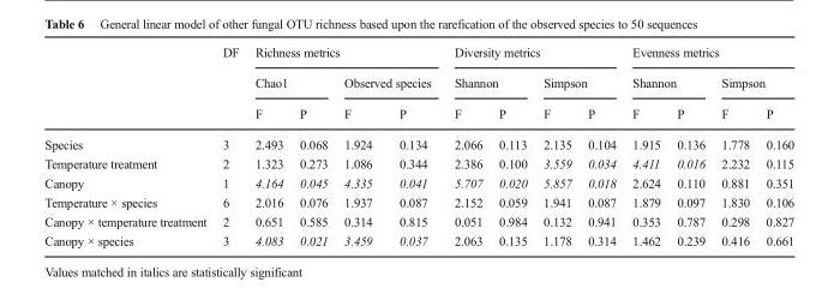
<table><thead><tr><td rowspan="3"></td><td rowspan="3">DF</td><td colspan="4">Richness metrics</td><td colspan="4">Diversity metrics</td><td colspan="4">Evenness metrics</td></tr><tr><td colspan="2">Chao1</td><td colspan="2">Observed species</td><td colspan="2">Shannon</td><td colspan="2">Simpson</td><td colspan="2">Shannon</td><td colspan="2">Simpson</td></tr><tr><td>F</td><td>P</td><td>F</td><td>P</td><td>F</td><td>P</td><td>F</td><td>P</td><td>F</td><td>P</td><td>F</td><td>P</td></tr></thead><tbody><tr><td>Species</td><td>3</td><td>2.493</td><td>0.068</td><td>1.924</td><td>0.134</td><td>2.066</td><td>0.113</td><td>2.135</td><td>0.104</td><td>1.915</td><td>0.136</td><td>1.778</td><td>0.160</td></tr><tr><td>Temperature treatment</td><td>2</td><td>1.323</td><td>0.273</td><td>1.086</td><td>0.344</td><td>2.386</td><td>0.100</td><td>3.559</td><td>0.034</td><td>4.411</td><td>0.016</td><td>2.232</td><td>0.115</td></tr><tr><td>Canopy</td><td>1</td><td>4.164</td><td>0.045</td><td>4.335</td><td>0.041</td><td>5.707</td><td>0.020</td><td>5.857</td><td>0.018</td><td>2.624</td><td>0.110</td><td>0.881</td><td>0.351</td></tr><tr><td>Temperature × species</td><td>6</td><td>2.016</td><td>0.076</td><td>1.937</td><td>0.087</td><td>2.152</td><td>0.059</td><td>1.941</td><td>0.087</td><td>1.879</td><td>0.097</td><td>1.830</td><td>0.106</td></tr><tr><td>Canopy × temperature treatment</td><td>2</td><td>0.651</td><td>0.585</td><td>0.314</td><td>0.815</td><td>0.051</td><td>0.984</td><td>0.132</td><td>0.941</td><td>0.353</td><td>0.787</td><td>0.298</td><td>0.827</td></tr><tr><td>Canopy × species</td><td>3</td><td>4.083</td><td>0.021</td><td>3.459</td><td>0.037</td><td>2.063</td><td>0.135</td><td>1.178</td><td>0.314</td><td>1.462</td><td>0.239</td><td>0.416</td><td>0.661</td></tr></tbody></table>